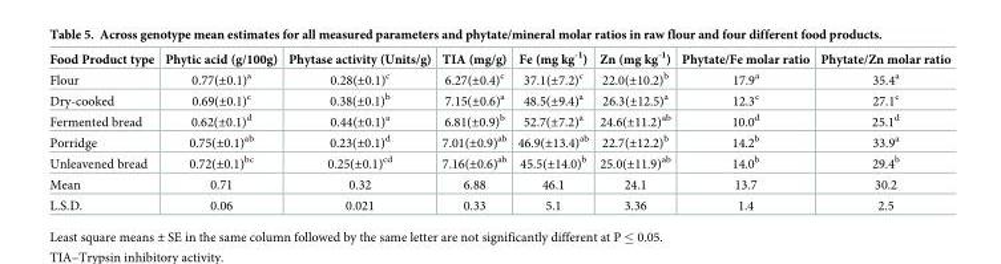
<table><thead><tr><td>Food Product type</td><td>Phytic acid (g/100g)</td><td>Phytase activity (Units/g)</td><td>TIA (mg/g)</td><td>Fe (mg kg<sup>-1</sup>)</td><td>Zn (mg kg<sup>-1</sup>)</td><td>Phytate/Fe molar ratio</td><td>Phytate/Zn molar ratio</td></tr></thead><tbody><tr><td>Flour</td><td>0.77(±0.1)<sup>a</sup></td><td>0.28(±0.1)<sup>c</sup></td><td>6.27(±0.4)<sup>c</sup></td><td>37.1(±7.2)<sup>c</sup></td><td>22.0(±10.2)<sup>b</sup></td><td>17.9<sup>a</sup></td><td>35.4<sup>a</sup></td></tr><tr><td>Dry-cooked</td><td>0.69(±0.1)<sup>c</sup></td><td>0.38(±0.1)<sup>b</sup></td><td>7.15(±0.6)<sup>a</sup></td><td>48.5(±9.4)<sup>a</sup></td><td>26.3(±12.5)<sup>a</sup></td><td>12.3<sup>c</sup></td><td>27.1<sup>c</sup></td></tr><tr><td>Fermented bread</td><td>0.62(±0.1)<sup>d</sup></td><td>0.44(±0.1)<sup>a</sup></td><td>6.81(±0.9)<sup>b</sup></td><td>52.7(±7.2)<sup>a</sup></td><td>24.6(±11.2)<sup>ab</sup></td><td>10.0<sup>d</sup></td><td>25.1<sup>d</sup></td></tr><tr><td>Porridge</td><td>0.75(±0.1)<sup>ab</sup></td><td>0.23(±0.1)<sup>d</sup></td><td>7.01(±0.9)<sup>ab</sup></td><td>46.9(±13.4)<sup>ab</sup></td><td>22.7(±12.2)<sup>b</sup></td><td>14.2<sup>b</sup></td><td>33.9<sup>a</sup></td></tr><tr><td>Unleavened bread</td><td>0.72(±0.1)<sup>bc</sup></td><td>0.25(±0.1)<sup>cd</sup></td><td>7.16(±0.6)<sup>ab</sup></td><td>45.5(±14.0)<sup>b</sup></td><td>25.0(±11.9)<sup>ab</sup></td><td>14.0<sup>b</sup></td><td>29.4<sup>b</sup></td></tr><tr><td>Mean</td><td>0.71</td><td>0.32</td><td>6.88</td><td>46.1</td><td>24.1</td><td>13.7</td><td>30.2</td></tr><tr><td>L.S.D.</td><td>0.06</td><td>0.021</td><td>0.33</td><td>5.1</td><td>3.36</td><td>1.4</td><td>2.5</td></tr></tbody></table>